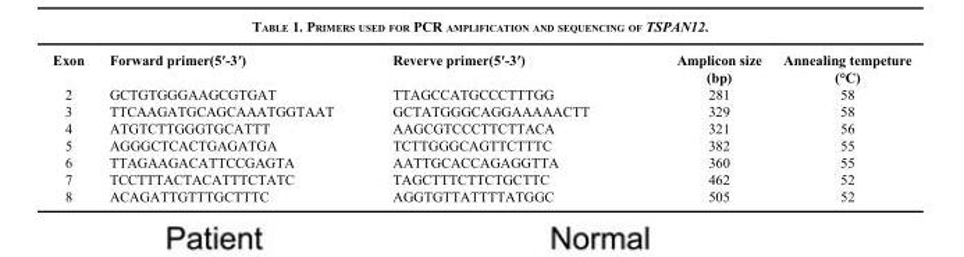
<table><thead><tr><td>Exon</td><td>Forward primer(5′-3′)</td><td>Reverve primer(5′-3′)</td><td>Amplicon size (bp)</td><td>Annealing tempeture (°C)</td></tr></thead><tbody><tr><td>2</td><td>GCTGTGGGAAGCGTGAT</td><td>TTAGCCATGCCCTTTGG</td><td>281</td><td>58</td></tr><tr><td>3</td><td>TTCAAGATGCAGCAAATGGTAAT</td><td>GCTATGGGCAGGAAAAACTT</td><td>329</td><td>58</td></tr><tr><td>4</td><td>ATGTCTTGGGTGCATTT</td><td>AAGCGTCCCTTCTTACA</td><td>321</td><td>56</td></tr><tr><td>5</td><td>AGGGCTCACTGAGATGA</td><td>TCTTGGGCAGTTCTTTC</td><td>382</td><td>55</td></tr><tr><td>6</td><td>TTAGAAGACATTCCGAGTA</td><td>AATTGCACCAGAGGTTA</td><td>360</td><td>55</td></tr><tr><td>7</td><td>TCCTTTACTACATTTCTATC</td><td>TAGCTTTCTTCTGCTTC</td><td>462</td><td>52</td></tr><tr><td>8</td><td>ACAGATTGTTTGCTTTC</td><td>AGGTGTTATTTTATGGC</td><td>505</td><td>52</td></tr></tbody></table>